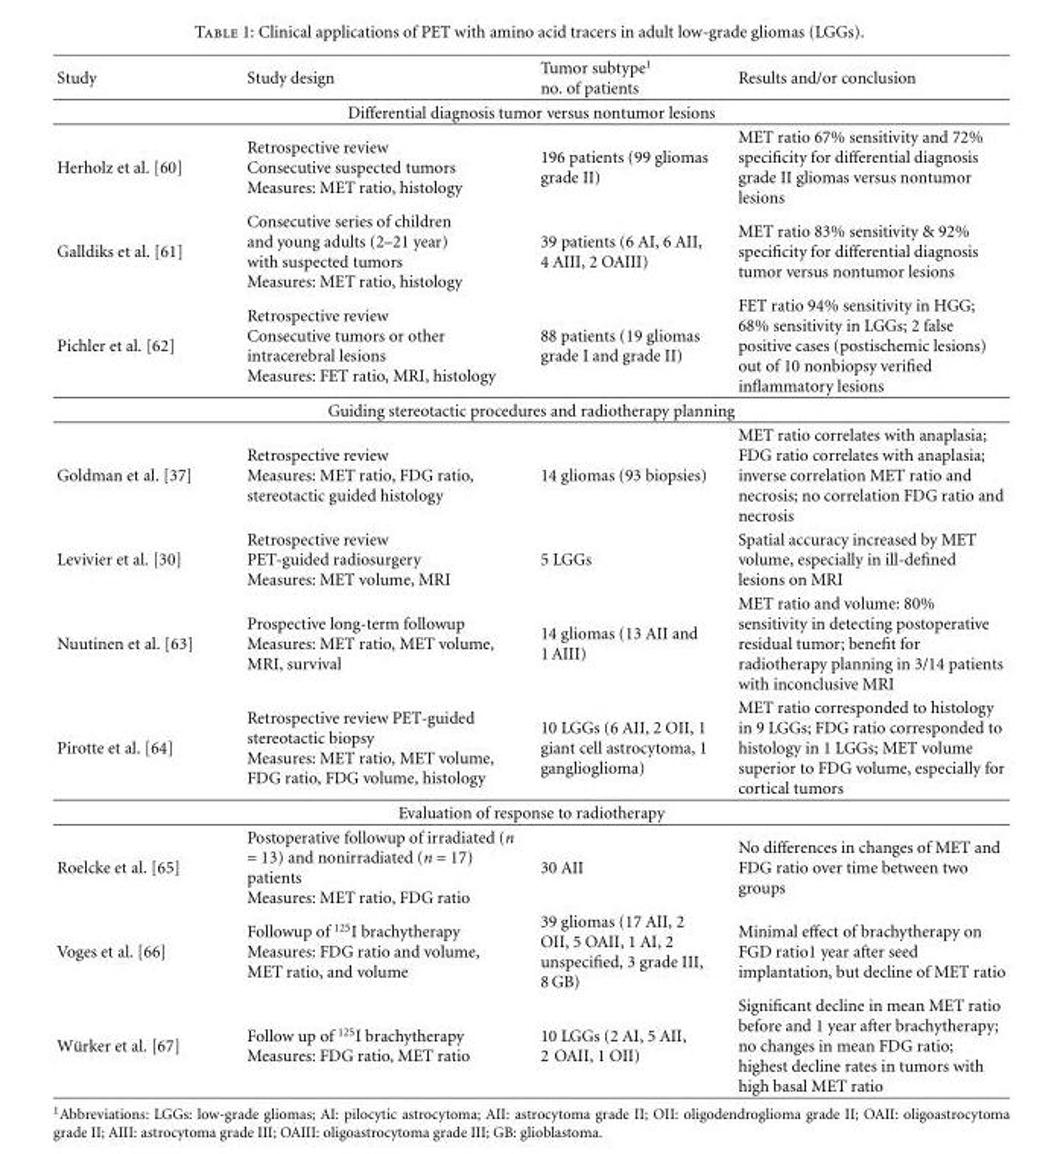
<table><thead><tr><td>Study</td><td>Study design</td><td>Tumor subtype<sup>1</sup> no. of patients</td><td>Results and/or conclusion</td></tr></thead><tbody><tr><td colspan="4">Differential diagnosis tumor versus nontumor lesions</td></tr><tr><td>Herholz et al. [60]</td><td>Retrospective review Consecutive suspected tumors Measures: MET ratio, histology</td><td>196 patients (99 gliomas grade II)</td><td>MET ratio 67% sensitivity and 72% specificity for differential diagnosis grade II gliomas versus nontumor lesions</td></tr><tr><td>Galldiks et al. [61]</td><td>Consecutive series of children and young adults (2–21 year) with suspected tumors Measures: MET ratio, histology</td><td>39 patients (6 AI, 6 AII, 4 AIII, 2 OAIII)</td><td>MET ratio 83% sensitivity &amp; 92% specificity for differential diagnosis tumor versus nontumor lesions</td></tr><tr><td>Pichler et al. [62]</td><td>Retrospective review Consecutive tumors or other intracerebral lesions Measures: FET ratio, MRI, histology</td><td>88 patients (19 gliomas grade I and grade II)</td><td>FET ratio 94% sensitivity in HGG; 68% sensitivity in LGGs; 2 false positive cases (postischemic lesions) out of 10 nonbiopsy verified inflammatory lesions</td></tr><tr><td colspan="4">Guiding stereotactic procedures and radiotherapy planning</td></tr><tr><td>Goldman et al. [37]</td><td>Retrospective review Measures: MET ratio, FDG ratio, stereotactic guided histology</td><td>14 gliomas (93 biopsies)</td><td>MET ratio correlates with anaplasia; FDG ratio correlates with anaplasia; inverse correlation MET ratio and necrosis; no correlation FDG ratio and necrosis</td></tr><tr><td>Levivier et al. [30]</td><td>Retrospective review PET-guided radiosurgery Measures: MET volume, MRI</td><td>5 LGGs</td><td>Spatial accuracy increased by MET volume, especially in ill-defined lesions on MRI</td></tr><tr><td>Nuutinen et al. [63]</td><td>Prospective long-term followup Measures: MET ratio, MET volume, MRI, survival</td><td>14 gliomas (13 AII and 1 AIII)</td><td>MET ratio and volume: 80% sensitivity in detecting postoperative residual tumor; benefit for radiotherapy planning in 3/14 patients with inconclusive MRI</td></tr><tr><td>Pirotte et al. [64]</td><td>Retrospective review PET-guided stereotactic biopsy Measures: MET ratio, MET volume, FDG ratio, FDG volume, histology</td><td>10 LGGs (6 AII, 2 OII, 1 giant cell astrocytoma, 1 ganglioglioma)</td><td>MET ratio corresponded to histology in 9 LGGs; FDG ratio corresponded to histology in 1 LGGs; MET volume superior to FDG volume, especially for cortical tumors</td></tr><tr><td colspan="4">Evaluation of response to radiotherapy</td></tr><tr><td>Roelcke et al. [65]</td><td>Postoperative followup of irradiated (n = 13) and nonirradiated (n = 17) patients Measures: MET ratio, FDG ratio</td><td>30 AII</td><td>No differences in changes of MET and FDG ratio over time between two groups</td></tr><tr><td>Voges et al. [66]</td><td>Followup of <sup>125</sup>I brachytherapy Measures: FDG ratio and volume, MET ratio, and volume</td><td>39 gliomas (17 AII, 2 OII, 5 OAII, 1 AI, 2 unspecified, 3 grade III, 8 GB)</td><td>Minimal effect of brachytherapy on FGD ratio1 year after seed implantation, but decline of MET ratio</td></tr><tr><td>W¨urker et al. [67]</td><td>Follow up of <sup>125</sup>I brachytherapy Measures: FDG ratio, MET ratio</td><td>10 LGGs (2 AI, 5 AII, 2 OAII, 1 OII)</td><td>Significant decline in mean MET ratio before and 1 year after brachytherapy; no changes in mean FDG ratio; highest decline rates in tumors with high basal MET ratio</td></tr></tbody></table>